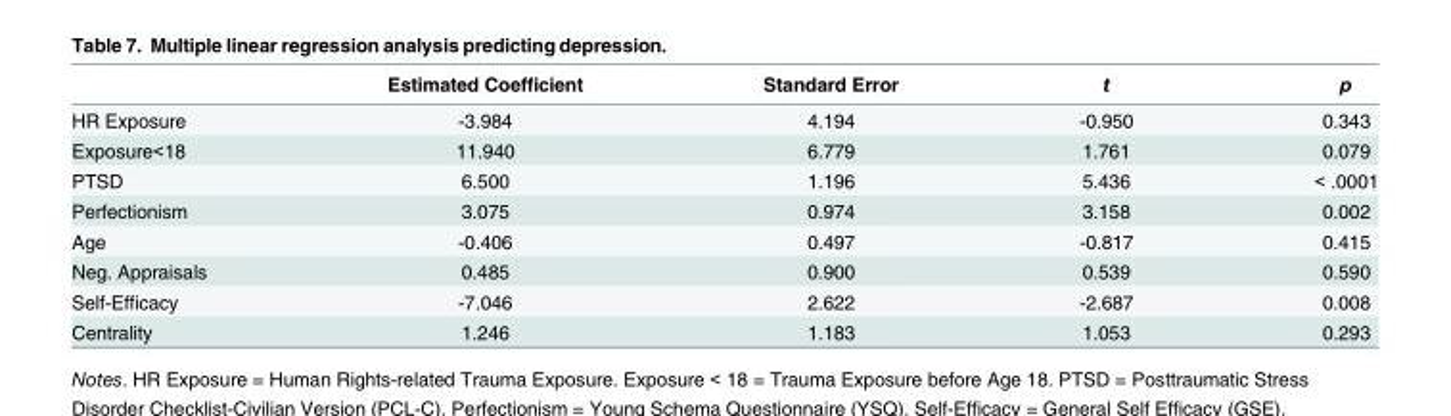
<table><thead><tr><td></td><td>Estimated Coefficient</td><td>Standard Error</td><td>t</td><td>p</td></tr></thead><tbody><tr><td>HR Exposure</td><td>-3.984</td><td>4.194</td><td>-0.950</td><td>0.343</td></tr><tr><td>Exposure&lt;18</td><td>11.940</td><td>6.779</td><td>1.761</td><td>0.079</td></tr><tr><td>PTSD</td><td>6.500</td><td>1.196</td><td>5.436</td><td>&lt; .0001</td></tr><tr><td>Perfectionism</td><td>3.075</td><td>0.974</td><td>3.158</td><td>0.002</td></tr><tr><td>Age</td><td>-0.406</td><td>0.497</td><td>-0.817</td><td>0.415</td></tr><tr><td>Neg. Appraisals</td><td>0.485</td><td>0.900</td><td>0.539</td><td>0.590</td></tr><tr><td>Self-Efficacy</td><td>-7.046</td><td>2.622</td><td>-2.687</td><td>0.008</td></tr><tr><td>Centrality</td><td>1.246</td><td>1.183</td><td>1.053</td><td>0.293</td></tr></tbody></table>